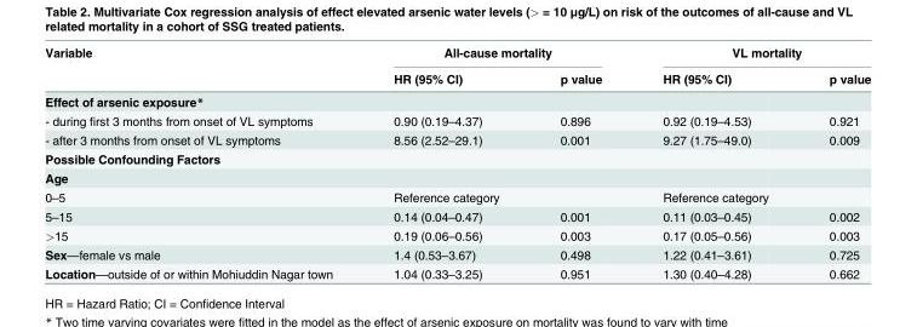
<table><thead><tr><td rowspan="2">Variable</td><td colspan="2">All-cause mortality</td><td colspan="2">VL mortality</td></tr><tr><td>HR (95% CI)</td><td>p value</td><td>HR (95% CI)</td><td>p value</td></tr></thead><tbody><tr><td colspan="5">Effect of arsenic exposure*</td></tr><tr><td>- during first 3 months from onset of VL symptoms</td><td>0.90 (0.19–4.37)</td><td>0.896</td><td>0.92 (0.19–4.53)</td><td>0.921</td></tr><tr><td>- after 3 months from onset of VL symptoms</td><td>8.56 (2.52–29.1)</td><td>0.001</td><td>9.27 (1.75–49.0)</td><td>0.009</td></tr><tr><td colspan="5">Possible Confounding Factors</td></tr><tr><td colspan="5">Age</td></tr><tr><td>0–5</td><td>Reference category</td><td></td><td>Reference category</td><td></td></tr><tr><td>5–15</td><td>0.14 (0.04–0.47)</td><td>0.001</td><td>0.11 (0.03–0.45)</td><td>0.002</td></tr><tr><td>&gt;15</td><td>0.19 (0.06–0.56)</td><td>0.003</td><td>0.17 (0.05–0.56)</td><td>0.003</td></tr><tr><td>Sex—female vs male</td><td>1.4 (0.53–3.67)</td><td>0.498</td><td>1.22 (0.41–3.61)</td><td>0.725</td></tr><tr><td>Location—outside of or within Mohiuddin Nagar town</td><td>1.04 (0.33–3.25)</td><td>0.951</td><td>1.30 (0.40–4.28)</td><td>0.662</td></tr></tbody></table>